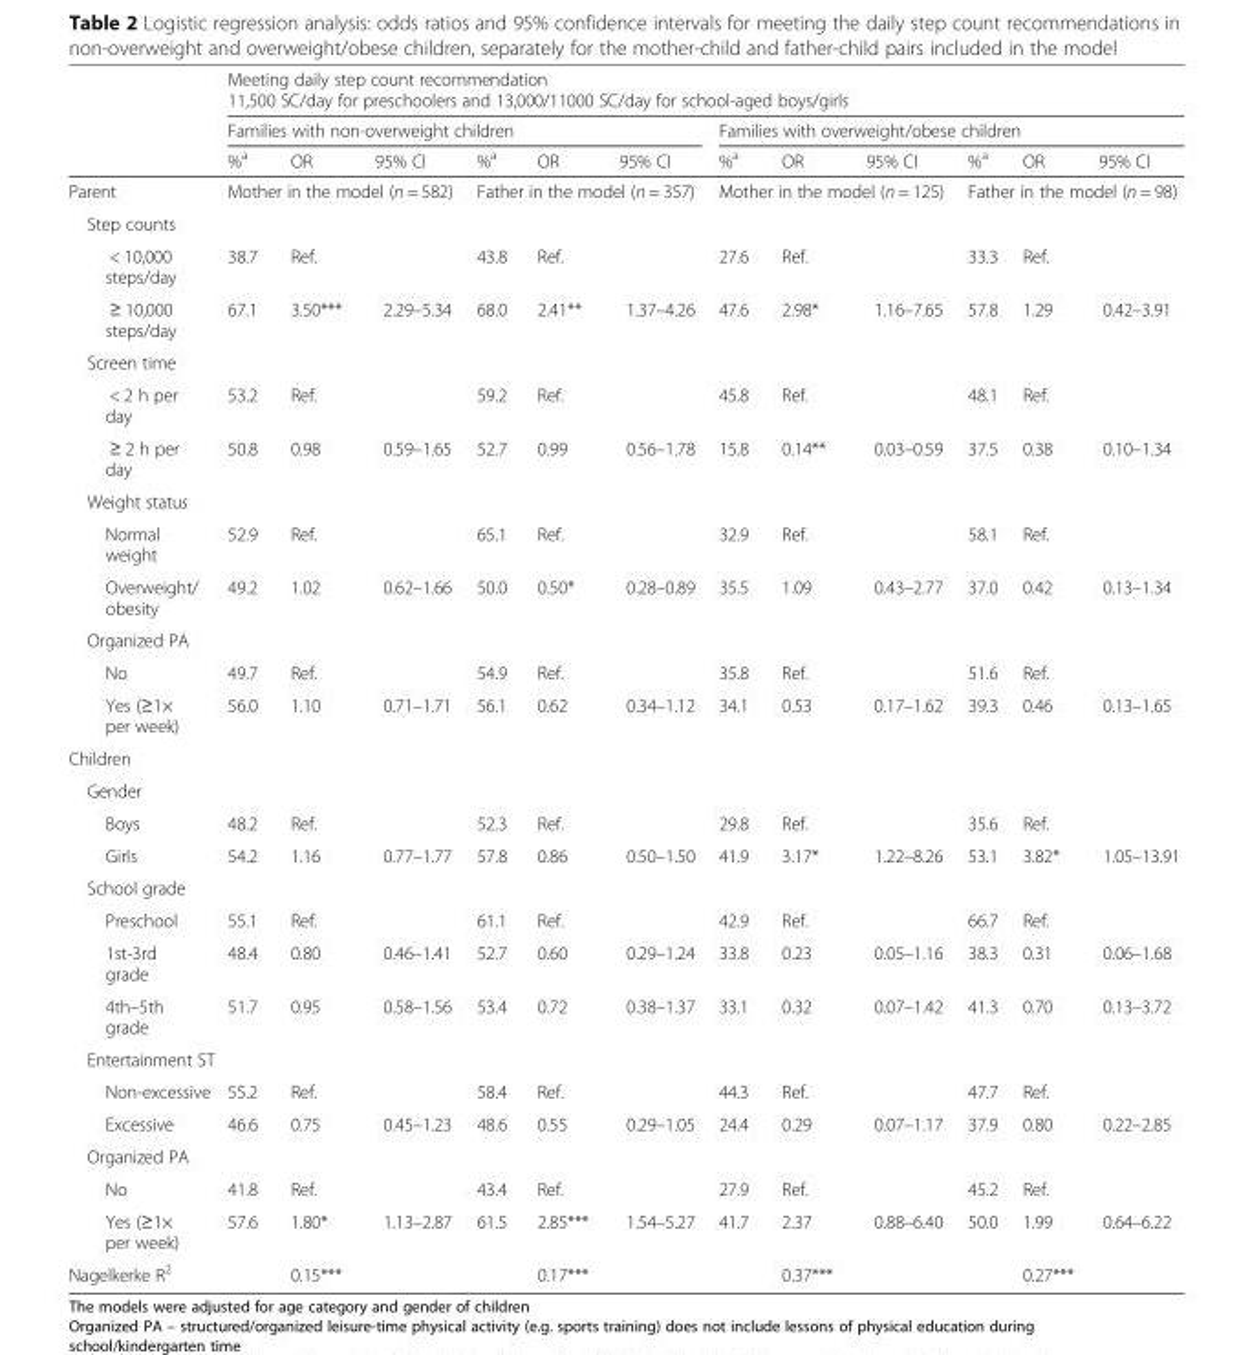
<table><thead><tr><td rowspan="3"></td><td colspan="12">Meeting daily step count recommendation 11,500 SC/day for preschoolers and 13,000/11000 SC/day for school-aged boys/girls</td></tr><tr><td colspan="6">Families with non-overweight children</td><td colspan="6">Families with overweight/obese children</td></tr><tr><td>%<sup>a</sup></td><td>OR</td><td>95% CI</td><td>%<sup>a</sup></td><td>OR</td><td>95% CI</td><td>%<sup>a</sup></td><td>OR</td><td>95% CI</td><td>%<sup>a</sup></td><td>OR</td><td>95% CI</td></tr></thead><tbody><tr><td>Parent</td><td colspan="3">Mother in the model (n = 582)</td><td colspan="3">Father in the model (n = 357)</td><td colspan="3">Mother in the model (n = 125)</td><td colspan="3">Father in the model (n = 98)</td></tr><tr><td colspan="13">Step counts</td></tr><tr><td>&lt; 10,000 steps/day</td><td>38.7</td><td>Ref.</td><td></td><td>43.8</td><td>Ref.</td><td></td><td>27.6</td><td>Ref.</td><td></td><td>33.3</td><td>Ref.</td><td></td></tr><tr><td>≥ 10,000 steps/day</td><td>67.1</td><td>3.50***</td><td>2.29–5.34</td><td>68.0</td><td>2.41**</td><td>1.37–4.26</td><td>47.6</td><td>2.98*</td><td>1.16–7.65</td><td>57.8</td><td>1.29</td><td>0.42–3.91</td></tr><tr><td colspan="13">Screen time</td></tr><tr><td>&lt; 2 h per day</td><td>53.2</td><td>Ref.</td><td></td><td>59.2</td><td>Ref.</td><td></td><td>45.8</td><td>Ref.</td><td></td><td>48.1</td><td>Ref.</td><td></td></tr><tr><td>≥ 2 h per day</td><td>50.8</td><td>0.98</td><td>0.59–1.65</td><td>52.7</td><td>0.99</td><td>0.56–1.78</td><td>15.8</td><td>0.14**</td><td>0.03–0.59</td><td>37.5</td><td>0.38</td><td>0.10–1.34</td></tr><tr><td colspan="13">Weight status</td></tr><tr><td>Normal weight</td><td>52.9</td><td>Ref.</td><td></td><td>65.1</td><td>Ref.</td><td></td><td>32.9</td><td>Ref.</td><td></td><td>58.1</td><td>Ref.</td><td></td></tr><tr><td>Overweight/ obesity</td><td>49.2</td><td>1.02</td><td>0.62–1.66</td><td>50.0</td><td>0.50*</td><td>0.28–0.89</td><td>35.5</td><td>1.09</td><td>0.43–2.77</td><td>37.0</td><td>0.42</td><td>0.13–1.34</td></tr><tr><td colspan="13">Organized PA</td></tr><tr><td>No</td><td>49.7</td><td>Ref.</td><td></td><td>54.9</td><td>Ref.</td><td></td><td>35.8</td><td>Ref.</td><td></td><td>51.6</td><td>Ref.</td><td></td></tr><tr><td>Yes (≥1× per week)</td><td>56.0</td><td>1.10</td><td>0.71–1.71</td><td>56.1</td><td>0.62</td><td>0.34–1.12</td><td>34.1</td><td>0.53</td><td>0.17–1.62</td><td>39.3</td><td>0.46</td><td>0.13–1.65</td></tr><tr><td colspan="13">Children</td></tr><tr><td colspan="13">Gender</td></tr><tr><td>Boys</td><td>48.2</td><td>Ref.</td><td></td><td>52.3</td><td>Ref.</td><td></td><td>29.8</td><td>Ref.</td><td></td><td>35.6</td><td>Ref.</td><td></td></tr><tr><td>Girls</td><td>54.2</td><td>1.16</td><td>0.77–1.77</td><td>57.8</td><td>0.86</td><td>0.50–1.50</td><td>41.9</td><td>3.17*</td><td>1.22–8.26</td><td>53.1</td><td>3.82*</td><td>1.05–13.91</td></tr><tr><td colspan="13">School grade</td></tr><tr><td>Preschool</td><td>55.1</td><td>Ref.</td><td></td><td>61.1</td><td>Ref.</td><td></td><td>42.9</td><td>Ref.</td><td></td><td>66.7</td><td>Ref.</td><td></td></tr><tr><td>1st-3rd grade</td><td>48.4</td><td>0.80</td><td>0.46–1.41</td><td>52.7</td><td>0.60</td><td>0.29–1.24</td><td>33.8</td><td>0.23</td><td>0.05–1.16</td><td>38.3</td><td>0.31</td><td>0.06–1.68</td></tr><tr><td>4th–5th grade</td><td>51.7</td><td>0.95</td><td>0.58–1.56</td><td>53.4</td><td>0.72</td><td>0.38–1.37</td><td>33.1</td><td>0.32</td><td>0.07–1.42</td><td>41.3</td><td>0.70</td><td>0.13–3.72</td></tr><tr><td colspan="13">Entertainment ST</td></tr><tr><td>Non-excessive</td><td>55.2</td><td>Ref.</td><td></td><td>58.4</td><td>Ref.</td><td></td><td>44.3</td><td>Ref.</td><td></td><td>47.7</td><td>Ref.</td><td></td></tr><tr><td>Excessive</td><td>46.6</td><td>0.75</td><td>0.45–1.23</td><td>48.6</td><td>0.55</td><td>0.29–1.05</td><td>24.4</td><td>0.29</td><td>0.07–1.17</td><td>37.9</td><td>0.80</td><td>0.22–2.85</td></tr><tr><td colspan="13">Organized PA</td></tr><tr><td>No</td><td>41.8</td><td>Ref.</td><td></td><td>43.4</td><td>Ref.</td><td></td><td>27.9</td><td>Ref.</td><td></td><td>45.2</td><td>Ref.</td><td></td></tr><tr><td>Yes (≥1× per week)</td><td>57.6</td><td>1.80*</td><td>1.13–2.87</td><td>61.5</td><td>2.85***</td><td>1.54–5.27</td><td>41.7</td><td>2.37</td><td>0.88–6.40</td><td>50.0</td><td>1.99</td><td>0.64–6.22</td></tr><tr><td>Nagelkerke R<sup>2</sup></td><td></td><td>0.15***</td><td></td><td></td><td>0.17***</td><td></td><td></td><td>0.37***</td><td></td><td></td><td>0.27***</td><td></td></tr></tbody></table>